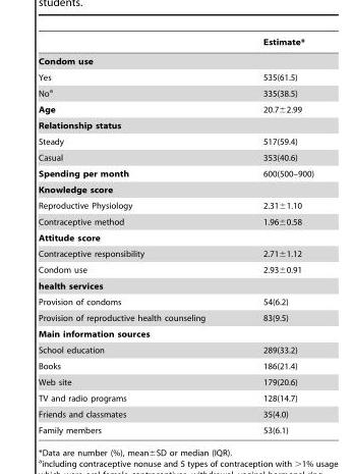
<table><thead><tr><td></td><td>Estimate*</td></tr></thead><tbody><tr><td colspan="2">Condom use</td></tr><tr><td>Yes</td><td>535(61.5)</td></tr><tr><td>No<sup>a</sup></td><td>335(38.5)</td></tr><tr><td>Age</td><td>20.7±2.99</td></tr><tr><td colspan="2">Relationship status</td></tr><tr><td>Steady</td><td>517(59.4)</td></tr><tr><td>Casual</td><td>353(40.6)</td></tr><tr><td>Spending per month</td><td>600(500–900)</td></tr><tr><td colspan="2">Knowledge score</td></tr><tr><td>Reproductive Physiology</td><td>2.31±1.10</td></tr><tr><td>Contraceptive method</td><td>1.96±0.58</td></tr><tr><td colspan="2">Attitude score</td></tr><tr><td>Contraceptive responsibility</td><td>2.71±1.12</td></tr><tr><td>Condom use</td><td>2.93±0.91</td></tr><tr><td colspan="2">health services</td></tr><tr><td>Provision of condoms</td><td>54(6.2)</td></tr><tr><td>Provision of reproductive health counseling</td><td>83(9.5)</td></tr><tr><td colspan="2">Main information sources</td></tr><tr><td>School education</td><td>289(33.2)</td></tr><tr><td>Books</td><td>186(21.4)</td></tr><tr><td>Web site</td><td>179(20.6)</td></tr><tr><td>TV and radio programs</td><td>128(14.7)</td></tr><tr><td>Friends and classmates</td><td>35(4.0)</td></tr><tr><td>Family members</td><td>53(6.1)</td></tr></tbody></table>